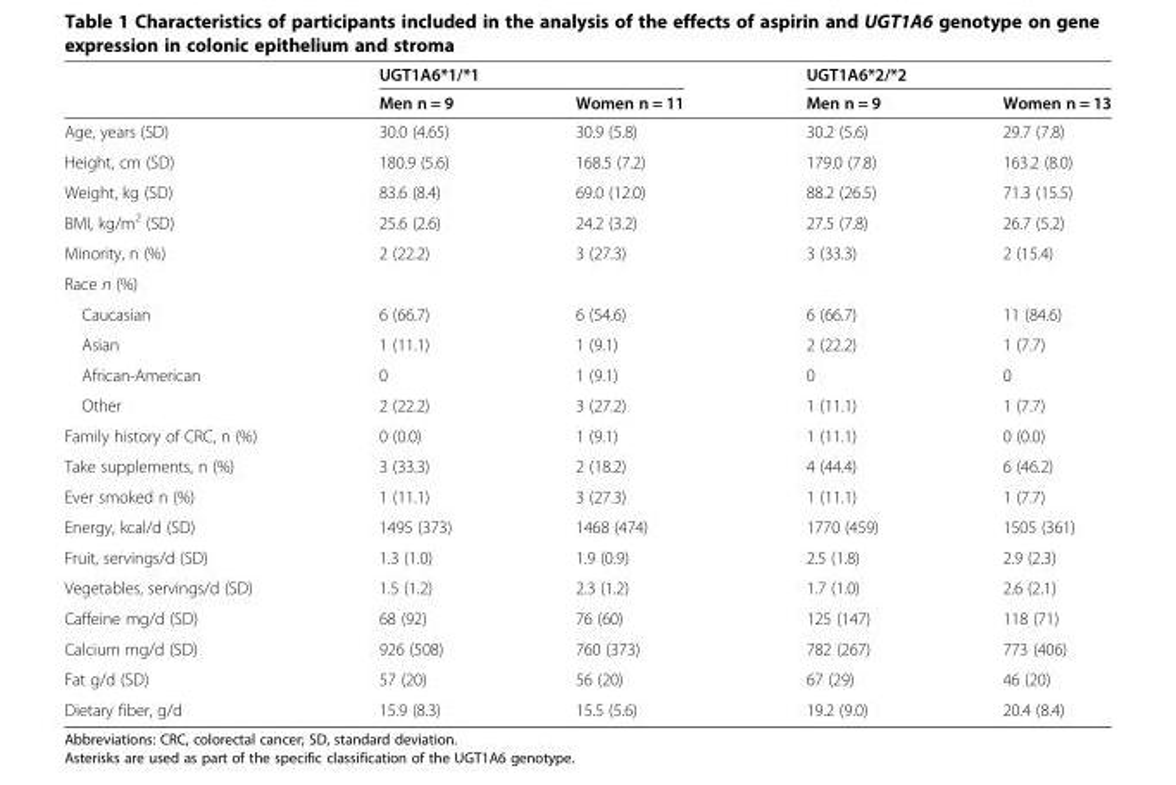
<table><thead><tr><td rowspan="2"></td><td colspan="2">UGT1A6*1/*1</td><td colspan="2">UGT1A6*2/*2</td></tr><tr><td>Men n = 9</td><td>Women n = 11</td><td>Men n = 9</td><td>Women n = 13</td></tr></thead><tbody><tr><td>Age, years (SD)</td><td>30.0 (4.65)</td><td>30.9 (5.8)</td><td>30.2 (5.6)</td><td>29.7 (7.8)</td></tr><tr><td>Height, cm (SD)</td><td>180.9 (5.6)</td><td>168.5 (7.2)</td><td>179.0 (7.8)</td><td>163.2 (8.0)</td></tr><tr><td>Weight, kg (SD)</td><td>83.6 (8.4)</td><td>69.0 (12.0)</td><td>88.2 (26.5)</td><td>71.3 (15.5)</td></tr><tr><td>BMI, kg/m<sup>2</sup> (SD)</td><td>25.6 (2.6)</td><td>24.2 (3.2)</td><td>27.5 (7.8)</td><td>26.7 (5.2)</td></tr><tr><td>Minority, n (%)</td><td>2 (22.2)</td><td>3 (27.3)</td><td>3 (33.3)</td><td>2 (15.4)</td></tr><tr><td colspan="5">Race n (%)</td></tr><tr><td>Caucasian</td><td>6 (66.7)</td><td>6 (54.6)</td><td>6 (66.7)</td><td>11 (84.6)</td></tr><tr><td>Asian</td><td>1 (11.1)</td><td>1 (9.1)</td><td>2 (22.2)</td><td>1 (7.7)</td></tr><tr><td>African-American</td><td>0</td><td>1 (9.1)</td><td>0</td><td>0</td></tr><tr><td>Other</td><td>2 (22.2)</td><td>3 (27.2)</td><td>1 (11.1)</td><td>1 (7.7)</td></tr><tr><td>Family history of CRC, n (%)</td><td>0 (0.0)</td><td>1 (9.1)</td><td>1 (11.1)</td><td>0 (0.0)</td></tr><tr><td>Take supplements, n (%)</td><td>3 (33.3)</td><td>2 (18.2)</td><td>4 (44.4)</td><td>6 (46.2)</td></tr><tr><td>Ever smoked n (%)</td><td>1 (11.1)</td><td>3 (27.3)</td><td>1 (11.1)</td><td>1 (7.7)</td></tr><tr><td>Energy, kcal/d (SD)</td><td>1495 (373)</td><td>1468 (474)</td><td>1770 (459)</td><td>1505 (361)</td></tr><tr><td>Fruit, servings/d (SD)</td><td>1.3 (1.0)</td><td>1.9 (0.9)</td><td>2.5 (1.8)</td><td>2.9 (2.3)</td></tr><tr><td>Vegetables, servings/d (SD)</td><td>1.5 (1.2)</td><td>2.3 (1.2)</td><td>1.7 (1.0)</td><td>2.6 (2.1)</td></tr><tr><td>Caffeine mg/d (SD)</td><td>68 (92)</td><td>76 (60)</td><td>125 (147)</td><td>118 (71)</td></tr><tr><td>Calcium mg/d (SD)</td><td>926 (508)</td><td>760 (373)</td><td>782 (267)</td><td>773 (406)</td></tr><tr><td>Fat g/d (SD)</td><td>57 (20)</td><td>56 (20)</td><td>67 (29)</td><td>46 (20)</td></tr><tr><td>Dietary fiber, g/d</td><td>15.9 (8.3)</td><td>15.5 (5.6)</td><td>19.2 (9.0)</td><td>20.4 (8.4)</td></tr></tbody></table>